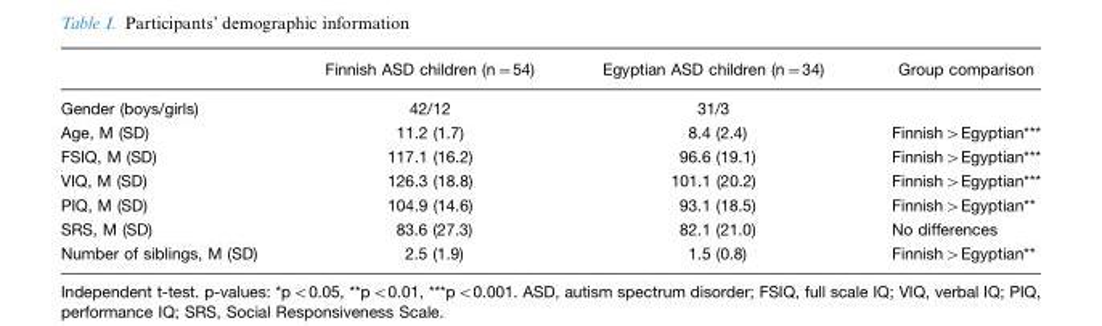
<table><thead><tr><td></td><td>Finnish ASD children (n=54)</td><td>Egyptian ASD children (n=34)</td><td>Group comparison</td></tr></thead><tbody><tr><td>Gender (boys/girls)</td><td>42/12</td><td>31/3</td><td></td></tr><tr><td>Age, M (SD)</td><td>11.2 (1.7)</td><td>8.4 (2.4)</td><td>Finnish&gt;Egyptian***</td></tr><tr><td>FSIQ, M (SD)</td><td>117.1 (16.2)</td><td>96.6 (19.1)</td><td>Finnish&gt;Egyptian***</td></tr><tr><td>VIQ, M (SD)</td><td>126.3 (18.8)</td><td>101.1 (20.2)</td><td>Finnish&gt;Egyptian***</td></tr><tr><td>PIQ, M (SD)</td><td>104.9 (14.6)</td><td>93.1 (18.5)</td><td>Finnish&gt;Egyptian**</td></tr><tr><td>SRS, M (SD)</td><td>83.6 (27.3)</td><td>82.1 (21.0)</td><td>No differences</td></tr><tr><td>Number of siblings, M (SD)</td><td>2.5 (1.9)</td><td>1.5 (0.8)</td><td>Finnish&gt;Egyptian**</td></tr></tbody></table>